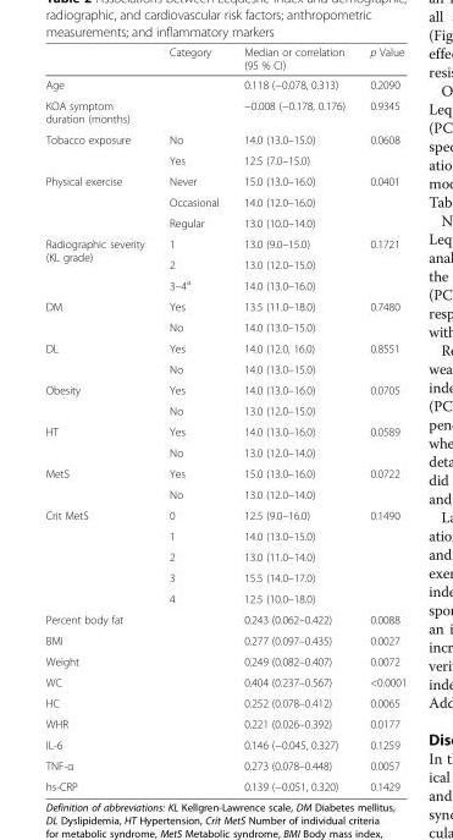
<table><thead><tr><td></td><td>Category</td><td>Median or correlation (95 % CI)</td><td>p Value</td></tr></thead><tbody><tr><td>Age</td><td></td><td>0.118 (−0.078, 0.313)</td><td>0.2090</td></tr><tr><td>KOA symptom duration (months)</td><td></td><td>−0.008 (−0.178, 0.176)</td><td>0.9345</td></tr><tr><td rowspan="2">Tobacco exposure</td><td>No</td><td>14.0 (13.0–15.0)</td><td>0.0608</td></tr><tr><td>Yes</td><td>12.5 (7.0–15.0)</td><td></td></tr><tr><td rowspan="3">Physical exercise</td><td>Never</td><td>15.0 (13.0–16.0)</td><td rowspan="3">0.0401</td></tr><tr><td>Occasional</td><td>14.0 (12.0–16.0)</td></tr><tr><td>Regular</td><td>13.0 (10.0–14.0)</td></tr><tr><td rowspan="3">Radiographic severity (KL grade)</td><td>1</td><td>13.0 (9.0–15.0)</td><td rowspan="3">0.1721</td></tr><tr><td>2</td><td>13.0 (12.0–15.0)</td></tr><tr><td>3–4<sup>a</sup></td><td>14.0 (13.0–16.0)</td></tr><tr><td rowspan="2">DM</td><td>Yes</td><td>13.5 (11.0–18.0)</td><td rowspan="2">0.7480</td></tr><tr><td>No</td><td>14.0 (13.0–15.0)</td></tr><tr><td rowspan="2">DL</td><td>Yes</td><td>14.0 (12.0, 16.0)</td><td rowspan="2">0.8551</td></tr><tr><td>No</td><td>14.0 (13.0–15.0)</td></tr><tr><td rowspan="2">Obesity</td><td>Yes</td><td>14.0 (13.0–16.0)</td><td rowspan="2">0.0705</td></tr><tr><td>No</td><td>13.0 (12.0–15.0)</td></tr><tr><td rowspan="2">HT</td><td>Yes</td><td>14.0 (13.0–16.0)</td><td rowspan="2">0.0589</td></tr><tr><td>No</td><td>13.0 (12.0–14.0)</td></tr><tr><td rowspan="2">MetS</td><td>Yes</td><td>15.0 (13.0–16.0)</td><td rowspan="2">0.0722</td></tr><tr><td>No</td><td>13.0 (12.0–14.0)</td></tr><tr><td rowspan="5">Crit MetS</td><td>0</td><td>12.5 (9.0–16.0)</td><td rowspan="5">0.1490</td></tr><tr><td>1</td><td>14.0 (13.0–15.0)</td></tr><tr><td>2</td><td>13.0 (11.0–14.0)</td></tr><tr><td>3</td><td>15.5 (14.0–17.0)</td></tr><tr><td>4</td><td>12.5 (10.0–18.0)</td></tr><tr><td>Percent body fat</td><td></td><td>0.243 (0.062–0.422)</td><td>0.0088</td></tr><tr><td>BMI</td><td></td><td>0.277 (0.097–0.435)</td><td>0.0027</td></tr><tr><td>Weight</td><td></td><td>0.249 (0.082–0.407)</td><td>0.0072</td></tr><tr><td>WC</td><td></td><td>0.404 (0.237–0.567)</td><td>&lt;0.0001</td></tr><tr><td>HC</td><td></td><td>0.252 (0.078–0.412)</td><td>0.0065</td></tr><tr><td>WHR</td><td></td><td>0.221 (0.026–0.392)</td><td>0.0177</td></tr><tr><td>IL-6</td><td></td><td>0.146 (−0.045, 0.327)</td><td>0.1259</td></tr><tr><td>TNF-α</td><td></td><td>0.273 (0.078–0.448)</td><td>0.0057</td></tr><tr><td>hs-CRP</td><td></td><td>0.139 (−0.051, 0.320)</td><td>0.1429</td></tr></tbody></table>